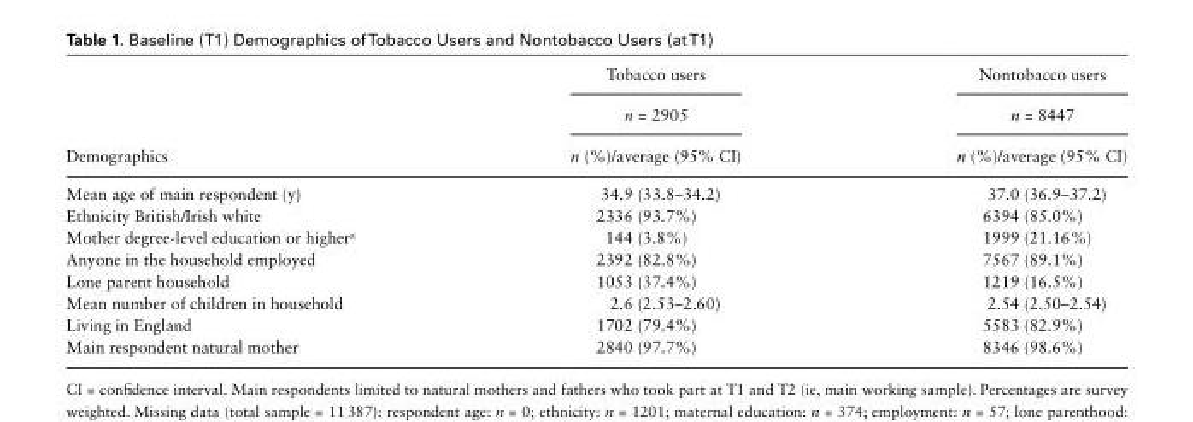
<table><thead><tr><td rowspan="3">Demographics</td><td rowspan="3">Tobacco users n = 2905 n (%)/average (95% CI)</td><td rowspan="3">Nontobacco users n = 8447 n (%)/average (95% CI)</td></tr><tr></tr><tr></tr></thead><tbody><tr><td>Mean age of main respondent (y)</td><td>34.9 (33.8–34.2)</td><td>37.0 (36.9–37.2)</td></tr><tr><td>Ethnicity British/Irish white</td><td>2336 (93.7%)</td><td>6394 (85.0%)</td></tr><tr><td>Mother degree-level education or higher<sup>a</sup></td><td>144 (3.8%)</td><td>1999 (21.16%)</td></tr><tr><td>Anyone in the household employed</td><td>2392 (82.8%)</td><td>7567 (89.1%)</td></tr><tr><td>Lone parent household</td><td>1053 (37.4%)</td><td>1219 (16.5%)</td></tr><tr><td>Mean number of children in household</td><td>2.6 (2.53–2.60)</td><td>2.54 (2.50–2.54)</td></tr><tr><td>Living in England</td><td>1702 (79.4%)</td><td>5583 (82.9%)</td></tr><tr><td>Main respondent natural mother</td><td>2840 (97.7%)</td><td>8346 (98.6%)</td></tr></tbody></table>